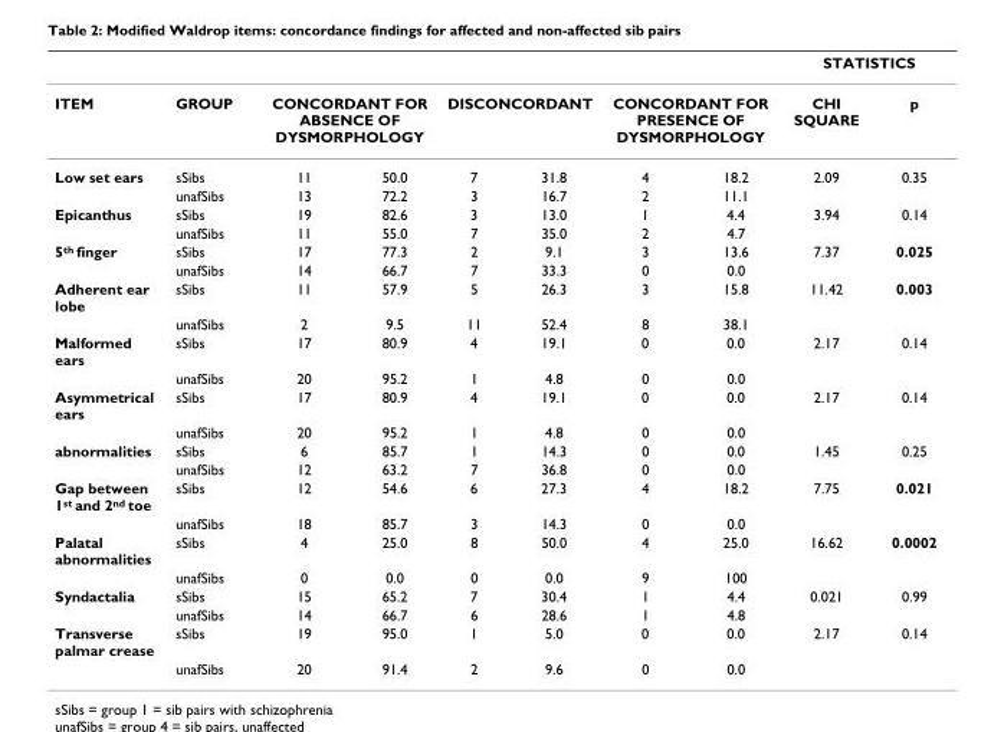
<table><thead><tr><td rowspan="2">ITEM</td><td rowspan="2">GROUP</td><td></td><td></td><td></td><td></td><td></td><td></td><td colspan="2">STATISTICS</td></tr><tr><td colspan="2">CONCORDANT FOR ABSENCE OF DYSMORPHOLOGY</td><td colspan="2">DISCONCORDANT</td><td colspan="2">CONCORDANT FOR PRESENCE OF DYSMORPHOLOGY</td><td>CHI SQUARE</td><td>p</td></tr></thead><tbody><tr><td rowspan="2">Low set ears</td><td>sSibs</td><td>11</td><td>50.0</td><td>7</td><td>31.8</td><td>4</td><td>18.2</td><td>2.09</td><td>0.35</td></tr><tr><td>unafSibs</td><td>13</td><td>72.2</td><td>3</td><td>16.7</td><td>2</td><td>11.1</td><td></td><td></td></tr><tr><td rowspan="2">Epicanthus</td><td>sSibs</td><td>19</td><td>82.6</td><td>3</td><td>13.0</td><td>1</td><td>4.4</td><td>3.94</td><td>0.14</td></tr><tr><td>unafSibs</td><td>11</td><td>55.0</td><td>7</td><td>35.0</td><td>2</td><td>4.7</td><td></td><td></td></tr><tr><td rowspan="2">5<sup>th</sup> finger</td><td>sSibs</td><td>17</td><td>77.3</td><td>2</td><td>9.1</td><td>3</td><td>13.6</td><td>7.37</td><td>0.025</td></tr><tr><td>unafSibs</td><td>14</td><td>66.7</td><td>7</td><td>33.3</td><td>0</td><td>0.0</td><td></td><td></td></tr><tr><td rowspan="2">Adherent ear lobe</td><td>sSibs</td><td>11</td><td>57.9</td><td>5</td><td>26.3</td><td>3</td><td>15.8</td><td>11.42</td><td>0.003</td></tr><tr><td>unafSibs</td><td>2</td><td>9.5</td><td>11</td><td>52.4</td><td>8</td><td>38.1</td><td></td><td></td></tr><tr><td rowspan="2">Malformed ears</td><td>sSibs</td><td>17</td><td>80.9</td><td>4</td><td>19.1</td><td>0</td><td>0.0</td><td>2.17</td><td>0.14</td></tr><tr><td>unafSibs</td><td>20</td><td>95.2</td><td>1</td><td>4.8</td><td>0</td><td>0.0</td><td></td><td></td></tr><tr><td rowspan="2">Asymmetrical ears</td><td>sSibs</td><td>17</td><td>80.9</td><td>4</td><td>19.1</td><td>0</td><td>0.0</td><td>2.17</td><td>0.14</td></tr><tr><td>unafSibs</td><td>20</td><td>95.2</td><td>1</td><td>4.8</td><td>0</td><td>0.0</td><td></td><td></td></tr><tr><td rowspan="2">abnormalities</td><td>sSibs</td><td>6</td><td>85.7</td><td>1</td><td>14.3</td><td>0</td><td>0.0</td><td>1.45</td><td>0.25</td></tr><tr><td>unafSibs</td><td>12</td><td>63.2</td><td>7</td><td>36.8</td><td>0</td><td>0.0</td><td></td><td></td></tr><tr><td rowspan="2">Gap between 1<sup>st</sup> and 2<sup>nd</sup> toe</td><td>sSibs</td><td>12</td><td>54.6</td><td>6</td><td>27.3</td><td>4</td><td>18.2</td><td>7.75</td><td>0.021</td></tr><tr><td>unafSibs</td><td>18</td><td>85.7</td><td>3</td><td>14.3</td><td>0</td><td>0.0</td><td></td><td></td></tr><tr><td rowspan="2">Palatal abnormalities</td><td>sSibs</td><td>4</td><td>25.0</td><td>8</td><td>50.0</td><td>4</td><td>25.0</td><td>16.62</td><td>0.0002</td></tr><tr><td>unafSibs</td><td>0</td><td>0.0</td><td>0</td><td>0.0</td><td>9</td><td>100</td><td></td><td></td></tr><tr><td rowspan="2">Syndactalia</td><td>sSibs</td><td>15</td><td>65.2</td><td>7</td><td>30.4</td><td>1</td><td>4.4</td><td>0.021</td><td>0.99</td></tr><tr><td>unafSibs</td><td>14</td><td>66.7</td><td>6</td><td>28.6</td><td>1</td><td>4.8</td><td></td><td></td></tr><tr><td rowspan="2">Transverse palmar crease</td><td>sSibs</td><td>19</td><td>95.0</td><td>1</td><td>5.0</td><td>0</td><td>0.0</td><td>2.17</td><td>0.14</td></tr><tr><td>unafSibs</td><td>20</td><td>91.4</td><td>2</td><td>9.6</td><td>0</td><td>0.0</td><td></td><td></td></tr></tbody></table>